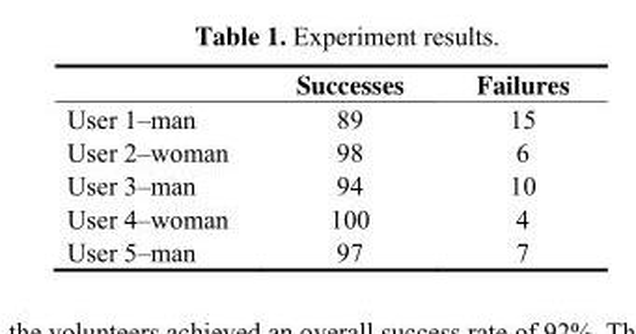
<table><thead><tr><td></td><td>Successes</td><td>Failures</td></tr></thead><tbody><tr><td>User 1–man</td><td>89</td><td>15</td></tr><tr><td>User 2–woman</td><td>98</td><td>6</td></tr><tr><td>User 3–man</td><td>94</td><td>10</td></tr><tr><td>User 4–woman</td><td>100</td><td>4</td></tr><tr><td>User 5–man</td><td>97</td><td>7</td></tr></tbody></table>